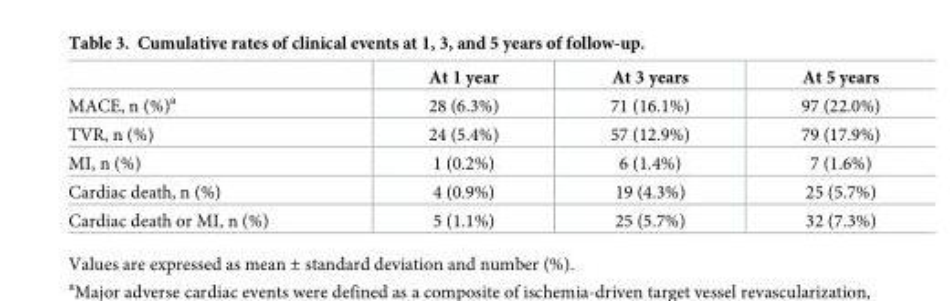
<table><thead><tr><td></td><td>At 1 year</td><td>At 3 years</td><td>At 5 years</td></tr></thead><tbody><tr><td>MACE, n (%)<sup>a</sup></td><td>28 (6.3%)</td><td>71 (16.1%)</td><td>97 (22.0%)</td></tr><tr><td>TVR, n (%)</td><td>24 (5.4%)</td><td>57 (12.9%)</td><td>79 (17.9%)</td></tr><tr><td>MI, n (%)</td><td>1 (0.2%)</td><td>6 (1.4%)</td><td>7 (1.6%)</td></tr><tr><td>Cardiac death, n (%)</td><td>4 (0.9%)</td><td>19 (4.3%)</td><td>25 (5.7%)</td></tr><tr><td>Cardiac death or MI, n (%)</td><td>5 (1.1%)</td><td>25 (5.7%)</td><td>32 (7.3%)</td></tr></tbody></table>